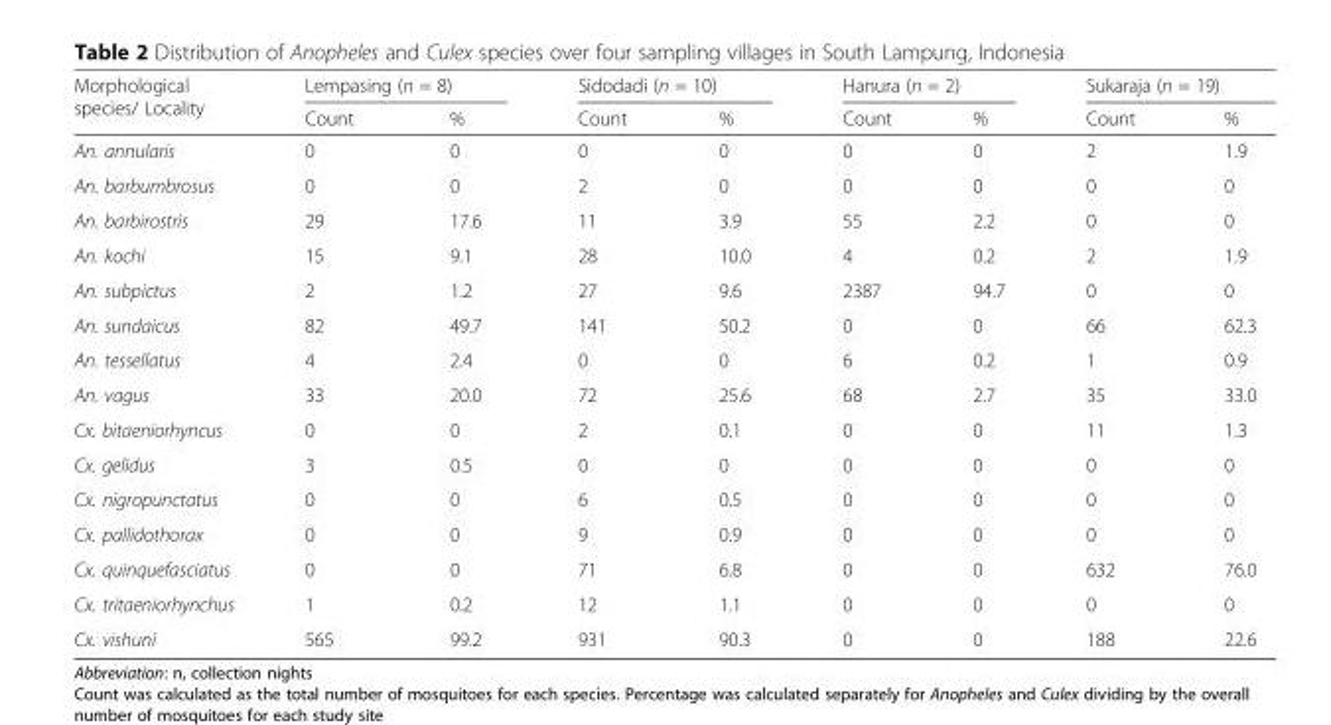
<table><thead><tr><td rowspan="2">Morphological species/ Locality</td><td colspan="2">Lempasing (n = 8)</td><td colspan="2">Sidodadi (n = 10)</td><td colspan="2">Hanura (n = 2)</td><td colspan="2">Sukaraja (n = 19)</td></tr><tr><td>Count</td><td>%</td><td>Count</td><td>%</td><td>Count</td><td>%</td><td>Count</td><td>%</td></tr></thead><tbody><tr><td>An. annularis</td><td>0</td><td>0</td><td>0</td><td>0</td><td>0</td><td>0</td><td>2</td><td>1.9</td></tr><tr><td>An. barbumbrosus</td><td>0</td><td>0</td><td>2</td><td>0</td><td>0</td><td>0</td><td>0</td><td>0</td></tr><tr><td>An. barbirostris</td><td>29</td><td>17.6</td><td>11</td><td>3.9</td><td>55</td><td>2.2</td><td>0</td><td>0</td></tr><tr><td>An. kochi</td><td>15</td><td>9.1</td><td>28</td><td>10.0</td><td>4</td><td>0.2</td><td>2</td><td>1.9</td></tr><tr><td>An. subpictus</td><td>2</td><td>1.2</td><td>27</td><td>9.6</td><td>2387</td><td>94.7</td><td>0</td><td>0</td></tr><tr><td>An. sundaicus</td><td>82</td><td>49.7</td><td>141</td><td>50.2</td><td>0</td><td>0</td><td>66</td><td>62.3</td></tr><tr><td>An. tessellatus</td><td>4</td><td>2.4</td><td>0</td><td>0</td><td>6</td><td>0.2</td><td>1</td><td>0.9</td></tr><tr><td>An. vagus</td><td>33</td><td>20.0</td><td>72</td><td>25.6</td><td>68</td><td>2.7</td><td>35</td><td>33.0</td></tr><tr><td>Cx. bitaeniorhyncus</td><td>0</td><td>0</td><td>2</td><td>0.1</td><td>0</td><td>0</td><td>11</td><td>1.3</td></tr><tr><td>Cx. gelidus</td><td>3</td><td>0.5</td><td>0</td><td>0</td><td>0</td><td>0</td><td>0</td><td>0</td></tr><tr><td>Cx. nigropunctatus</td><td>0</td><td>0</td><td>6</td><td>0.5</td><td>0</td><td>0</td><td>0</td><td>0</td></tr><tr><td>Cx. pallidothorax</td><td>0</td><td>0</td><td>9</td><td>0.9</td><td>0</td><td>0</td><td>0</td><td>0</td></tr><tr><td>Cx. quinquefasciatus</td><td>0</td><td>0</td><td>71</td><td>6.8</td><td>0</td><td>0</td><td>632</td><td>76.0</td></tr><tr><td>Cx. tritaeniorhynchus</td><td>1</td><td>0.2</td><td>12</td><td>1.1</td><td>0</td><td>0</td><td>0</td><td>0</td></tr><tr><td>Cx. vishuni</td><td>565</td><td>99.2</td><td>931</td><td>90.3</td><td>0</td><td>0</td><td>188</td><td>22.6</td></tr></tbody></table>